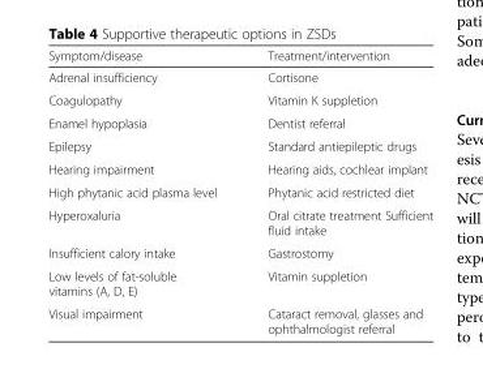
<table><thead><tr><td>Symptom/disease</td><td>Treatment/intervention</td></tr></thead><tbody><tr><td>Adrenal insufficiency</td><td>Cortisone</td></tr><tr><td>Coagulopathy</td><td>Vitamin K suppletion</td></tr><tr><td>Enamel hypoplasia</td><td>Dentist referral</td></tr><tr><td>Epilepsy</td><td>Standard antiepileptic drugs</td></tr><tr><td>Hearing impairment</td><td>Hearing aids, cochlear implant</td></tr><tr><td>High phytanic acid plasma level</td><td>Phytanic acid restricted diet</td></tr><tr><td>Hyperoxaluria</td><td>Oral citrate treatment Sufficient fluid intake</td></tr><tr><td>Insufficient calory intake</td><td>Gastrostomy</td></tr><tr><td>Low levels of fat-soluble vitamins (A, D, E)</td><td>Vitamin suppletion</td></tr><tr><td>Visual impairment</td><td>Cataract removal, glasses and ophthalmologist referral</td></tr></tbody></table>